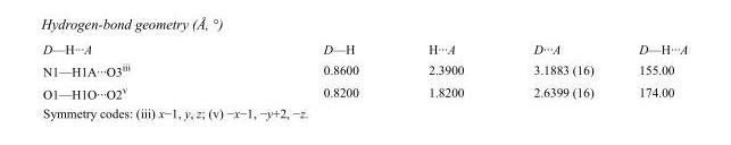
<table><tbody><tr><td>D—H···A</td><td>D—H</td><td>H···A</td><td>D···A</td><td>D—H···A</td></tr><tr><td>N1—H1A···O3<sup>iii</sup></td><td>0.8600</td><td>2.3900</td><td>3.1883 (16)</td><td>155.00</td></tr><tr><td>O1—H1O···O2<sup>v</sup></td><td>0.8200</td><td>1.8200</td><td>2.6399 (16)</td><td>174.00</td></tr></tbody></table>